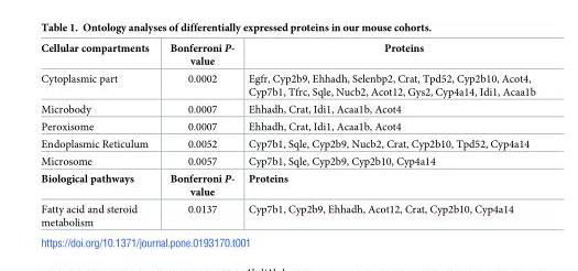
<table><tbody><tr><td>Cellular compartments</td><td>Bonferroni P- value</td><td>Proteins</td></tr><tr><td>Cytoplasmic part</td><td>0.0002</td><td>Egfr, Cyp2b9, Ehhadh, Selenbp2, Crat, Tpd52, Cyp2b10, Acot4, Cyp7b1, Tfrc, Sqle, Nucb2, Acot12, Gys2, Cyp4a14, Idi1, Acaa1b</td></tr><tr><td>Microbody</td><td>0.0007</td><td>Ehhadh, Crat, Idi1, Acaa1b, Acot4</td></tr><tr><td>Peroxisome</td><td>0.0007</td><td>Ehhadh, Crat, Idi1, Acaa1b, Acot4</td></tr><tr><td>Endoplasmic Reticulum</td><td>0.0052</td><td>Cyp7b1, Sqle, Cyp2b9, Nucb2, Crat, Cyp2b10, Tpd52, Cyp4a14</td></tr><tr><td>Microsome</td><td>0.0057</td><td>Cyp7b1, Sqle, Cyp2b9, Cyp2b10, Cyp4a14</td></tr><tr><td>Biological pathways</td><td>Bonferroni P- value</td><td>Proteins</td></tr><tr><td>Fatty acid and steroid metabolism</td><td>0.0137</td><td>Cyp7b1, Cyp2b9, Ehhadh, Acot12, Crat, Cyp2b10, Cyp4a14</td></tr></tbody></table>